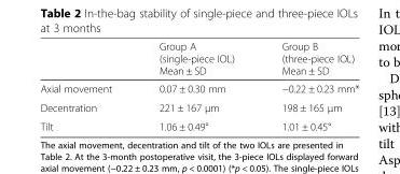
<table><thead><tr><td></td><td>Group A (single-piece IOL) Mean ± SD</td><td>Group B (three-piece IOL) Mean ± SD</td></tr></thead><tbody><tr><td>Axial movement</td><td>0.07 ± 0.30 mm</td><td>−0.22 ± 0.23 mm*</td></tr><tr><td>Decentration</td><td>221 ± 167 μm</td><td>198 ± 165 μm</td></tr><tr><td>Tilt</td><td>1.06 ± 0.49°</td><td>1.01 ± 0.45°</td></tr></tbody></table>